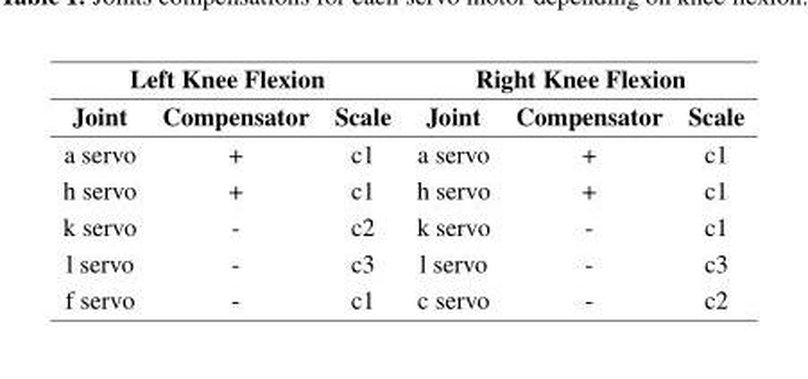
<table><thead><tr><td colspan="3">Left Knee Flexion</td><td colspan="3">Right Knee Flexion</td></tr><tr><td>Joint</td><td>Compensator</td><td>Scale</td><td>Joint</td><td>Compensator</td><td>Scale</td></tr></thead><tbody><tr><td>a servo</td><td>+</td><td>c1</td><td>a servo</td><td>+</td><td>c1</td></tr><tr><td>h servo</td><td>+</td><td>c1</td><td>h servo</td><td>+</td><td>c1</td></tr><tr><td>k servo</td><td>-</td><td>c2</td><td>k servo</td><td>-</td><td>c1</td></tr><tr><td>l servo</td><td>-</td><td>c3</td><td>l servo</td><td>-</td><td>c3</td></tr><tr><td>f servo</td><td>-</td><td>c1</td><td>c servo</td><td>-</td><td>c2</td></tr></tbody></table>